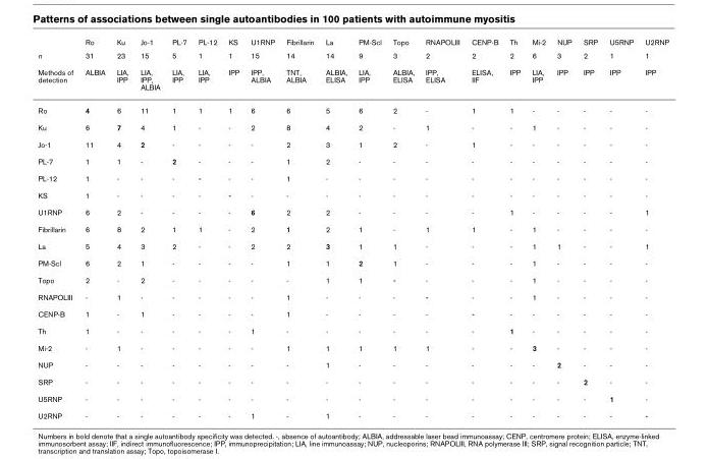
<table><thead><tr><td rowspan="3">n Methods of detection</td><td rowspan="3">Ro 31 ALBIA</td><td rowspan="3">Ku 23 LIA, IPP</td><td rowspan="3">Jo-1 15 LIA, IPP, ALBIA</td><td rowspan="3">PL-7 5 LIA, IPP</td><td rowspan="3">PL-12 1 LIA, IPP</td><td rowspan="3">KS 1 IPP</td><td rowspan="3">U1RNP 15 IPP, ALBIA</td><td rowspan="3">Fibrillarin 14 TNT, ALBIA</td><td rowspan="3">La 14 ALBIA, ELISA</td><td rowspan="3">PM-Scl 9 LIA, IPP</td><td rowspan="3">Topo 3 ALBIA, ELISA</td><td rowspan="3">RNAPOLIII 2 IPP, ELISA</td><td rowspan="3">CENP-B 2 ELISA, IIF</td><td rowspan="3">Th 2 IPP</td><td rowspan="3">Mi-2 6 LIA, IPP</td><td rowspan="3">NUP 3 IPP</td><td rowspan="3">SRP 2 IPP</td><td rowspan="3">U5RNP 1 IPP</td><td rowspan="3">U2RNP 1 IPP</td></tr><tr></tr><tr></tr></thead><tbody><tr><td>Ro</td><td>4</td><td>6</td><td>11</td><td>1</td><td>1</td><td>1</td><td>6</td><td>6</td><td>5</td><td>6</td><td>2</td><td>-</td><td>1</td><td>1</td><td>-</td><td>-</td><td>-</td><td>-</td><td>-</td></tr><tr><td>Ku</td><td>6</td><td>7</td><td>4</td><td>1</td><td>-</td><td>-</td><td>2</td><td>8</td><td>4</td><td>2</td><td>-</td><td>1</td><td>-</td><td>-</td><td>1</td><td>-</td><td>-</td><td>-</td><td>-</td></tr><tr><td>Jo-1</td><td>11</td><td>4</td><td>2</td><td>-</td><td>-</td><td>-</td><td>-</td><td>2</td><td>3</td><td>1</td><td>2</td><td>-</td><td>1</td><td>-</td><td>-</td><td>-</td><td>-</td><td>-</td><td>-</td></tr><tr><td>PL-7</td><td>1</td><td>1</td><td>-</td><td>2</td><td>-</td><td>-</td><td>-</td><td>1</td><td>2</td><td>-</td><td>-</td><td>-</td><td>-</td><td>-</td><td>-</td><td>-</td><td>-</td><td>-</td><td>-</td></tr><tr><td>PL-12</td><td>1</td><td>-</td><td>-</td><td>-</td><td>-</td><td>-</td><td>-</td><td>1</td><td>-</td><td>-</td><td>-</td><td>-</td><td>-</td><td>-</td><td>-</td><td>-</td><td>-</td><td>-</td><td>-</td></tr><tr><td>KS</td><td>1</td><td>-</td><td>-</td><td>-</td><td>-</td><td>-</td><td>-</td><td>-</td><td>-</td><td>-</td><td>-</td><td>-</td><td>-</td><td>-</td><td>-</td><td>-</td><td>-</td><td>-</td><td>-</td></tr><tr><td>U1RNP</td><td>6</td><td>2</td><td>-</td><td>-</td><td>-</td><td>-</td><td>6</td><td>2</td><td>2</td><td>-</td><td>-</td><td>-</td><td>-</td><td>1</td><td>-</td><td>-</td><td>-</td><td>-</td><td>1</td></tr><tr><td>Fibrillarin</td><td>6</td><td>8</td><td>2</td><td>1</td><td>1</td><td>-</td><td>2</td><td>1</td><td>2</td><td>1</td><td>-</td><td>1</td><td>1</td><td>-</td><td>1</td><td>-</td><td>-</td><td>-</td><td>-</td></tr><tr><td>La</td><td>5</td><td>4</td><td>3</td><td>2</td><td>-</td><td>-</td><td>2</td><td>2</td><td>3</td><td>1</td><td>1</td><td>-</td><td>-</td><td>-</td><td>1</td><td>1</td><td>-</td><td>-</td><td>1</td></tr><tr><td>PM-Scl</td><td>6</td><td>2</td><td>1</td><td>-</td><td>-</td><td>-</td><td>-</td><td>1</td><td>1</td><td>2</td><td>1</td><td>-</td><td>-</td><td>-</td><td>1</td><td>-</td><td>-</td><td>-</td><td>-</td></tr><tr><td>Topo</td><td>2</td><td>-</td><td>2</td><td>-</td><td>-</td><td>-</td><td>-</td><td>-</td><td>1</td><td>1</td><td>-</td><td>-</td><td>-</td><td>-</td><td>1</td><td>-</td><td>-</td><td>-</td><td>-</td></tr><tr><td>RNAPOLIII</td><td>-</td><td>1</td><td>-</td><td>-</td><td>-</td><td>-</td><td>-</td><td>1</td><td>-</td><td>-</td><td>-</td><td>-</td><td>-</td><td>-</td><td>1</td><td>-</td><td>-</td><td>-</td><td>-</td></tr><tr><td>CENP-B</td><td>1</td><td>-</td><td>1</td><td>-</td><td>-</td><td>-</td><td>-</td><td>1</td><td>-</td><td>-</td><td>-</td><td>-</td><td>-</td><td>-</td><td>-</td><td>-</td><td>-</td><td>-</td><td>-</td></tr><tr><td>Th</td><td>1</td><td>-</td><td>-</td><td>-</td><td>-</td><td>-</td><td>1</td><td>-</td><td>-</td><td>-</td><td>-</td><td>-</td><td>-</td><td>1</td><td>-</td><td>-</td><td>-</td><td>-</td><td>-</td></tr><tr><td>Mi-2</td><td>-</td><td>1</td><td>-</td><td>-</td><td>-</td><td>-</td><td>-</td><td>1</td><td>1</td><td>1</td><td>1</td><td>1</td><td>-</td><td>-</td><td>3</td><td>-</td><td>-</td><td>-</td><td>-</td></tr><tr><td>NUP</td><td>-</td><td>-</td><td>-</td><td>-</td><td>-</td><td>-</td><td>-</td><td>-</td><td>1</td><td>-</td><td>-</td><td>-</td><td>-</td><td>-</td><td>-</td><td>2</td><td>-</td><td>-</td><td>-</td></tr><tr><td>SRP</td><td>-</td><td>-</td><td>-</td><td>-</td><td>-</td><td>-</td><td>-</td><td>-</td><td>-</td><td>-</td><td>-</td><td>-</td><td>-</td><td>-</td><td>-</td><td>-</td><td>2</td><td>-</td><td>-</td></tr><tr><td>U5RNP</td><td>-</td><td>-</td><td>-</td><td>-</td><td>-</td><td>-</td><td>-</td><td>-</td><td>-</td><td>-</td><td>-</td><td>-</td><td>-</td><td>-</td><td>-</td><td>-</td><td>-</td><td>1</td><td>-</td></tr><tr><td>U2RNP</td><td>-</td><td>-</td><td>-</td><td>-</td><td>-</td><td>-</td><td>1</td><td>-</td><td>1</td><td>-</td><td>-</td><td>-</td><td>-</td><td>-</td><td>-</td><td>-</td><td>-</td><td>-</td><td>-</td></tr></tbody></table>